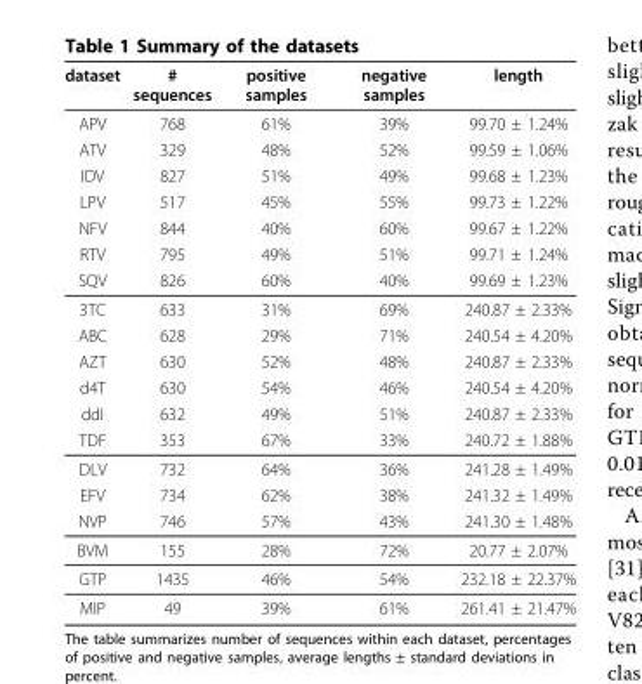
<table><thead><tr><td>dataset</td><td># sequences</td><td>positive samples</td><td>negative samples</td><td>length</td></tr></thead><tbody><tr><td>APV</td><td>768</td><td>61%</td><td>39%</td><td>99.70 ± 1.24%</td></tr><tr><td>ATV</td><td>329</td><td>48%</td><td>52%</td><td>99.59 ± 1.06%</td></tr><tr><td>IDV</td><td>827</td><td>51%</td><td>49%</td><td>99.68 ± 1.23%</td></tr><tr><td>LPV</td><td>517</td><td>45%</td><td>55%</td><td>99.73 ± 1.22%</td></tr><tr><td>NFV</td><td>844</td><td>40%</td><td>60%</td><td>99.67 ± 1.22%</td></tr><tr><td>RTV</td><td>795</td><td>49%</td><td>51%</td><td>99.71 ± 1.24%</td></tr><tr><td>SQV</td><td>826</td><td>60%</td><td>40%</td><td>99.69 ± 1.23%</td></tr><tr><td>3TC</td><td>633</td><td>31%</td><td>69%</td><td>240.87 ± 2.33%</td></tr><tr><td>ABC</td><td>628</td><td>29%</td><td>71%</td><td>240.54 ± 4.20%</td></tr><tr><td>AZT</td><td>630</td><td>52%</td><td>48%</td><td>240.87 ± 2.33%</td></tr><tr><td>d4T</td><td>630</td><td>54%</td><td>46%</td><td>240.54 ± 4.20%</td></tr><tr><td>ddI</td><td>632</td><td>49%</td><td>51%</td><td>240.87 ± 2.33%</td></tr><tr><td>TDF</td><td>353</td><td>67%</td><td>33%</td><td>240.72 ± 1.88%</td></tr><tr><td>DLV</td><td>732</td><td>64%</td><td>36%</td><td>241.28 ± 1.49%</td></tr><tr><td>EFV</td><td>734</td><td>62%</td><td>38%</td><td>241.32 ± 1.49%</td></tr><tr><td>NVP</td><td>746</td><td>57%</td><td>43%</td><td>241.30 ± 1.48%</td></tr><tr><td>BVM</td><td>155</td><td>28%</td><td>72%</td><td>20.77 ± 2.07%</td></tr><tr><td>GTP</td><td>1435</td><td>46%</td><td>54%</td><td>232.18 ± 22.37%</td></tr><tr><td>MIP</td><td>49</td><td>39%</td><td>61%</td><td>261.41 ± 21.47%</td></tr></tbody></table>